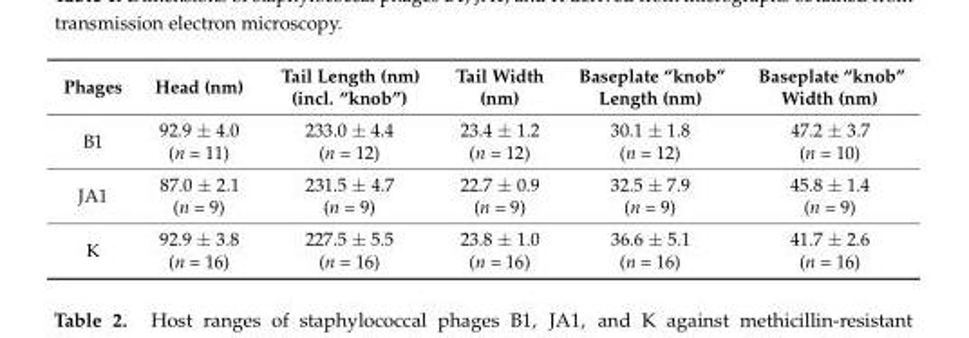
<table><thead><tr><td>Phages</td><td>Head (nm)</td><td>Tail Length (nm) (incl. “knob”)</td><td>Tail Width (nm)</td><td>Baseplate “knob” Length (nm)</td><td>Baseplate “knob” Width (nm)</td></tr></thead><tbody><tr><td>B1</td><td>92.9 ± 4.0 (n = 11)</td><td>233.0 ± 4.4 (n = 12)</td><td>23.4 ± 1.2 (n = 12)</td><td>30.1 ± 1.8 (n = 12)</td><td>47.2 ± 3.7 (n = 10)</td></tr><tr><td>JA1</td><td>87.0 ± 2.1 (n = 9)</td><td>231.5 ± 4.7 (n = 9)</td><td>22.7 ± 0.9 (n = 9)</td><td>32.5 ± 7.9 (n = 9)</td><td>45.8 ± 1.4 (n = 9)</td></tr><tr><td>K</td><td>92.9 ± 3.8 (n = 16)</td><td>227.5 ± 5.5 (n = 16)</td><td>23.8 ± 1.0 (n = 16)</td><td>36.6 ± 5.1 (n = 16)</td><td>41.7 ± 2.6 (n = 16)</td></tr></tbody></table>